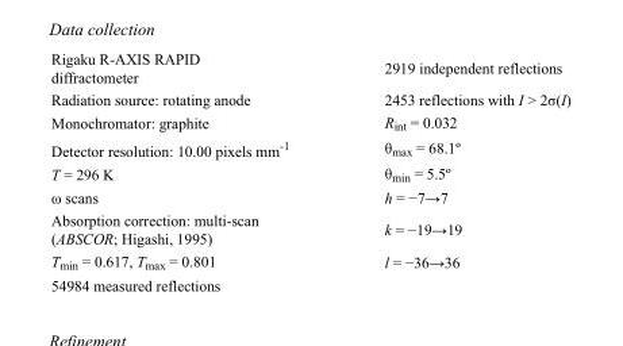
<table><tbody><tr><td>Rigaku R-AXIS RAPID diffractometer</td><td>2919 independent reflections</td></tr><tr><td>Radiation source: rotating anode</td><td>2453 reflections with I &gt; 2σ(I)</td></tr><tr><td>Monochromator: graphite</td><td>R<sub>int</sub> = 0.032</td></tr><tr><td>Detector resolution: 10.00 pixels mm<sup>-1</sup></td><td>θ<sub>max</sub> = 68.1º</td></tr><tr><td>T = 296 K</td><td>θ<sub>min</sub> = 5.5º</td></tr><tr><td>ω scans</td><td>h = −7→7</td></tr><tr><td>Absorption correction: multi-scan (ABSCOR; Higashi, 1995)</td><td>k = −19→19</td></tr><tr><td>T<sub>min</sub> = 0.617, T<sub>max</sub> = 0.801</td><td>l = −36→36</td></tr><tr><td>54984 measured reflections</td><td></td></tr></tbody></table>